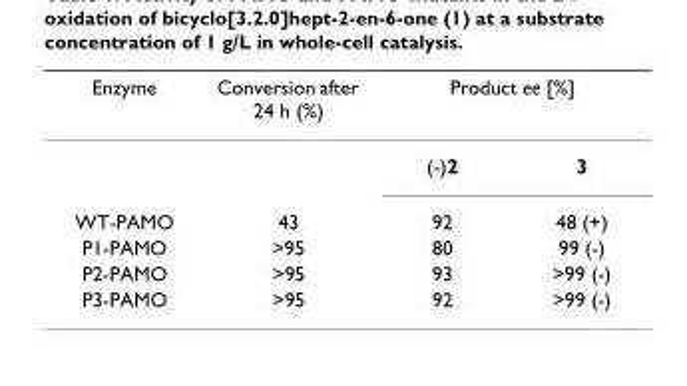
<table><thead><tr><td rowspan="2">Enzyme</td><td rowspan="2">Conversion after 24 h (%)</td><td colspan="2">Product ee [%]</td></tr><tr><td>(-)2</td><td>3</td></tr></thead><tbody><tr><td>WT-PAMO</td><td>43</td><td>92</td><td>48 (+)</td></tr><tr><td>P1-PAMO</td><td>&gt;95</td><td>80</td><td>99 (-)</td></tr><tr><td>P2-PAMO</td><td>&gt;95</td><td>93</td><td>&gt;99 (-)</td></tr><tr><td>P3-PAMO</td><td>&gt;95</td><td>92</td><td>&gt;99 (-)</td></tr></tbody></table>